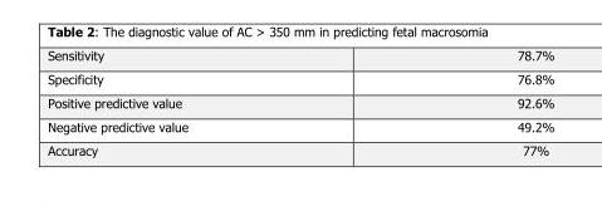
<table><tbody><tr><td>Sensitivity</td><td>78.7%</td></tr><tr><td>Specificity</td><td>76.8%</td></tr><tr><td>Positive predictive value</td><td>92.6%</td></tr><tr><td>Negative predictive value</td><td>49.2%</td></tr><tr><td>Accuracy</td><td>77%</td></tr></tbody></table>